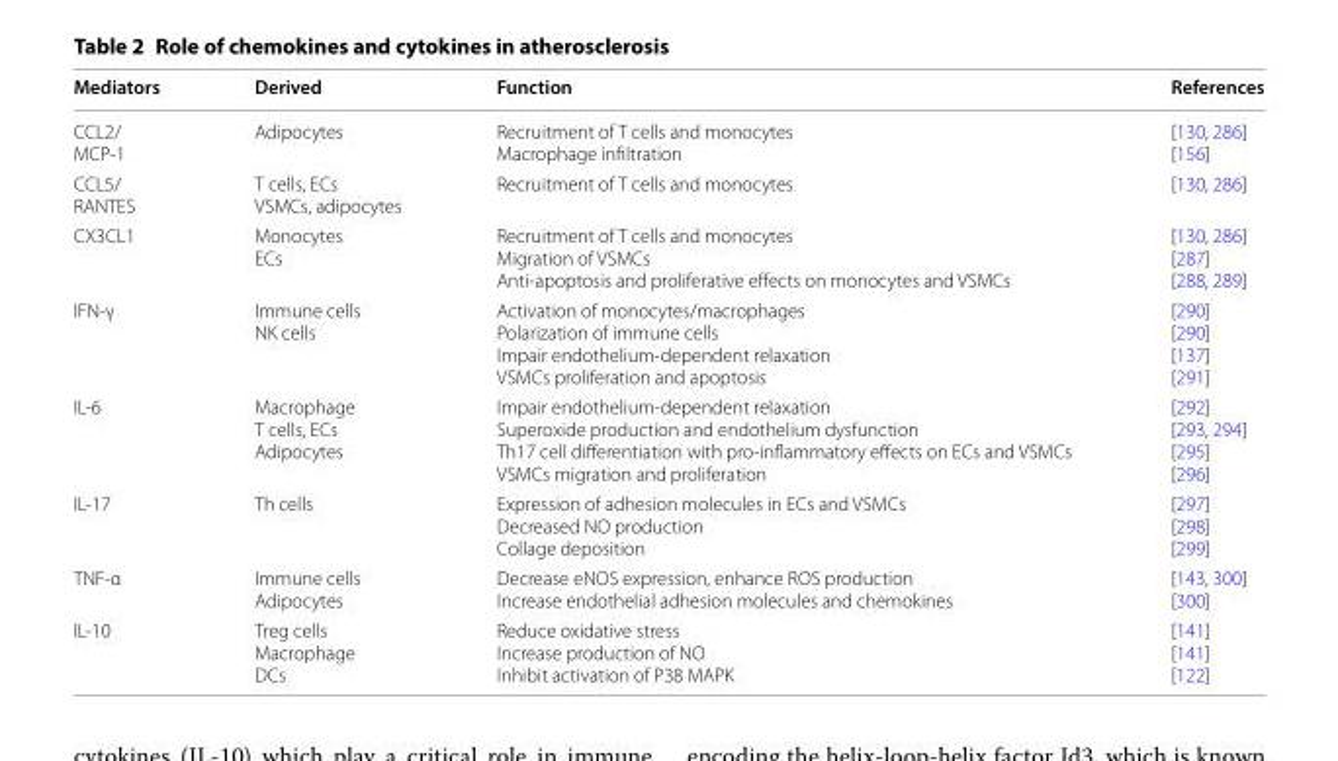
<table><thead><tr><td>Mediators</td><td>Derived</td><td>Function</td><td>References</td></tr></thead><tbody><tr><td>CCL2/ MCP‑1</td><td>Adipocytes</td><td>Recruitment of T cells and monocytes Macrophage infiltration</td><td>[130, 286] [156]</td></tr><tr><td>CCL5/ RANTES</td><td>T cells, ECs VSMCs, adipocytes</td><td>Recruitment of T cells and monocytes</td><td>[130, 286]</td></tr><tr><td>CX3CL1</td><td>Monocytes ECs</td><td>Recruitment of T cells and monocytes Migration of VSMCs Anti‑apoptosis and proliferative effects on monocytes and VSMCs</td><td>[130, 286] [287] [288, 289]</td></tr><tr><td>IFN‑γ</td><td>Immune cells NK cells</td><td>Activation of monocytes/macrophages Polarization of immune cells Impair endothelium‑dependent relaxation VSMCs proliferation and apoptosis</td><td>[290] [290] [137] [291]</td></tr><tr><td>IL‑6</td><td>Macrophage T cells, ECs Adipocytes</td><td>Impair endothelium‑dependent relaxation Superoxide production and endothelium dysfunction Th17 cell differentiation with pro‑inflammatory effects on ECs and VSMCs VSMCs migration and proliferation</td><td>[292] [293, 294] [295] [296]</td></tr><tr><td>IL‑17</td><td>Th cells</td><td>Expression of adhesion molecules in ECs and VSMCs Decreased NO production Collage deposition</td><td>[297] [298] [299]</td></tr><tr><td>TNF‑α</td><td>Immune cells Adipocytes</td><td>Decrease eNOS expression, enhance ROS production Increase endothelial adhesion molecules and chemokines</td><td>[143, 300] [300]</td></tr><tr><td>IL‑10</td><td>Treg cells Macrophage DCs</td><td>Reduce oxidative stress Increase production of NO Inhibit activation of P38 MAPK</td><td>[141] [141] [122]</td></tr></tbody></table>